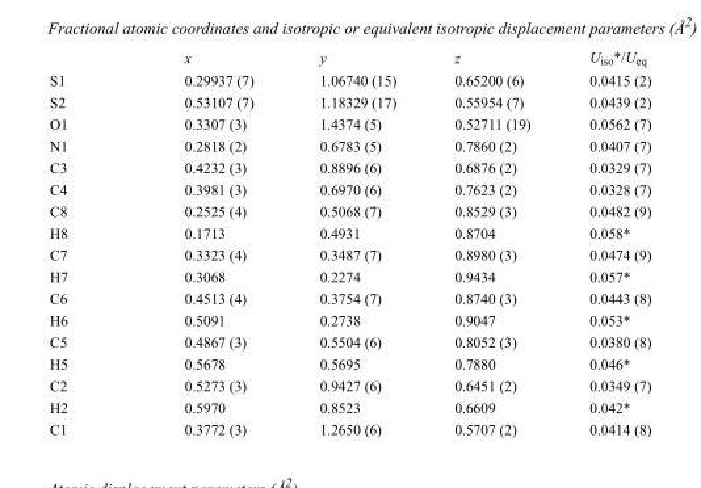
<table><thead><tr><td></td><td>x</td><td>y</td><td>z</td><td>U<sub>iso</sub>*/U<sub>eq</sub></td></tr></thead><tbody><tr><td>S1</td><td>0.29937 (7)</td><td>1.06740 (15)</td><td>0.65200 (6)</td><td>0.0415 (2)</td></tr><tr><td>S2</td><td>0.53107 (7)</td><td>1.18329 (17)</td><td>0.55954 (7)</td><td>0.0439 (2)</td></tr><tr><td>O1</td><td>0.3307 (3)</td><td>1.4374 (5)</td><td>0.52711 (19)</td><td>0.0562 (7)</td></tr><tr><td>N1</td><td>0.2818 (2)</td><td>0.6783 (5)</td><td>0.7860 (2)</td><td>0.0407 (7)</td></tr><tr><td>C3</td><td>0.4232 (3)</td><td>0.8896 (6)</td><td>0.6876 (2)</td><td>0.0329 (7)</td></tr><tr><td>C4</td><td>0.3981 (3)</td><td>0.6970 (6)</td><td>0.7623 (2)</td><td>0.0328 (7)</td></tr><tr><td>C8</td><td>0.2525 (4)</td><td>0.5068 (7)</td><td>0.8529 (3)</td><td>0.0482 (9)</td></tr><tr><td>H8</td><td>0.1713</td><td>0.4931</td><td>0.8704</td><td>0.058*</td></tr><tr><td>C7</td><td>0.3323 (4)</td><td>0.3487 (7)</td><td>0.8980 (3)</td><td>0.0474 (9)</td></tr><tr><td>H7</td><td>0.3068</td><td>0.2274</td><td>0.9434</td><td>0.057*</td></tr><tr><td>C6</td><td>0.4513 (4)</td><td>0.3754 (7)</td><td>0.8740 (3)</td><td>0.0443 (8)</td></tr><tr><td>H6</td><td>0.5091</td><td>0.2738</td><td>0.9047</td><td>0.053*</td></tr><tr><td>C5</td><td>0.4867 (3)</td><td>0.5504 (6)</td><td>0.8052 (3)</td><td>0.0380 (8)</td></tr><tr><td>H5</td><td>0.5678</td><td>0.5695</td><td>0.7880</td><td>0.046*</td></tr><tr><td>C2</td><td>0.5273 (3)</td><td>0.9427 (6)</td><td>0.6451 (2)</td><td>0.0349 (7)</td></tr><tr><td>H2</td><td>0.5970</td><td>0.8523</td><td>0.6609</td><td>0.042*</td></tr><tr><td>C1</td><td>0.3772 (3)</td><td>1.2650 (6)</td><td>0.5707 (2)</td><td>0.0414 (8)</td></tr></tbody></table>